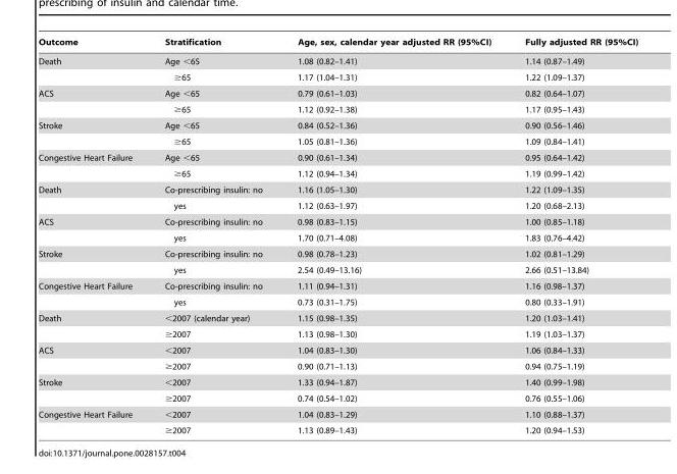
<table><thead><tr><td>Outcome</td><td>Stratification</td><td>Age, sex, calendar year adjusted RR (95%CI)</td><td>Fully adjusted RR (95%CI)</td></tr></thead><tbody><tr><td rowspan="2">Death</td><td>Age &lt;65</td><td>1.08 (0.82–1.41)</td><td>1.14 (0.87–1.49)</td></tr><tr><td>≥65</td><td>1.17 (1.04–1.31)</td><td>1.22 (1.09–1.37)</td></tr><tr><td rowspan="2">ACS</td><td>Age &lt;65</td><td>0.79 (0.61–1.03)</td><td>0.82 (0.64–1.07)</td></tr><tr><td>≥65</td><td>1.12 (0.92–1.38)</td><td>1.17 (0.95–1.43)</td></tr><tr><td rowspan="2">Stroke</td><td>Age &lt;65</td><td>0.84 (0.52–1.36)</td><td>0.90 (0.56–1.46)</td></tr><tr><td>≥65</td><td>1.05 (0.81–1.36)</td><td>1.09 (0.84–1.41)</td></tr><tr><td rowspan="2">Congestive Heart Failure</td><td>Age &lt;65</td><td>0.90 (0.61–1.34)</td><td>0.95 (0.64–1.42)</td></tr><tr><td>≥65</td><td>1.12 (0.94–1.34)</td><td>1.19 (0.99–1.42)</td></tr><tr><td rowspan="2">Death</td><td>Co-prescribing insulin: no</td><td>1.16 (1.05–1.30)</td><td>1.22 (1.09–1.35)</td></tr><tr><td>yes</td><td>1.12 (0.63–1.97)</td><td>1.20 (0.68–2.13)</td></tr><tr><td rowspan="2">ACS</td><td>Co-prescribing insulin: no</td><td>0.98 (0.83–1.15)</td><td>1.00 (0.85–1.18)</td></tr><tr><td>yes</td><td>1.70 (0.71–4.08)</td><td>1.83 (0.76–4.42)</td></tr><tr><td rowspan="2">Stroke</td><td>Co-prescribing insulin: no</td><td>0.98 (0.78–1.23)</td><td>1.02 (0.81–1.29)</td></tr><tr><td>yes</td><td>2.54 (0.49–13.16)</td><td>2.66 (0.51–13.84)</td></tr><tr><td rowspan="2">Congestive Heart Failure</td><td>Co-prescribing insulin: no</td><td>1.11 (0.94–1.31)</td><td>1.16 (0.98–1.37)</td></tr><tr><td>yes</td><td>0.73 (0.31–1.75)</td><td>0.80 (0.33–1.91)</td></tr><tr><td rowspan="2">Death</td><td>&lt;2007 (calendar year)</td><td>1.15 (0.98–1.35)</td><td>1.20 (1.03–1.41)</td></tr><tr><td>≥2007</td><td>1.13 (0.98–1.30)</td><td>1.19 (1.03–1.37)</td></tr><tr><td rowspan="2">ACS</td><td>&lt;2007</td><td>1.04 (0.83–1.30)</td><td>1.06 (0.84–1.33)</td></tr><tr><td>≥2007</td><td>0.90 (0.71–1.13)</td><td>0.94 (0.75–1.19)</td></tr><tr><td rowspan="2">Stroke</td><td>&lt;2007</td><td>1.33 (0.94–1.87)</td><td>1.40 (0.99–1.98)</td></tr><tr><td>≥2007</td><td>0.74 (0.54–1.02)</td><td>0.76 (0.55–1.06)</td></tr><tr><td rowspan="2">Congestive Heart Failure</td><td>&lt;2007</td><td>1.04 (0.83–1.29)</td><td>1.10 (0.88–1.37)</td></tr><tr><td>≥2007</td><td>1.13 (0.89–1.43)</td><td>1.20 (0.94–1.53)</td></tr></tbody></table>